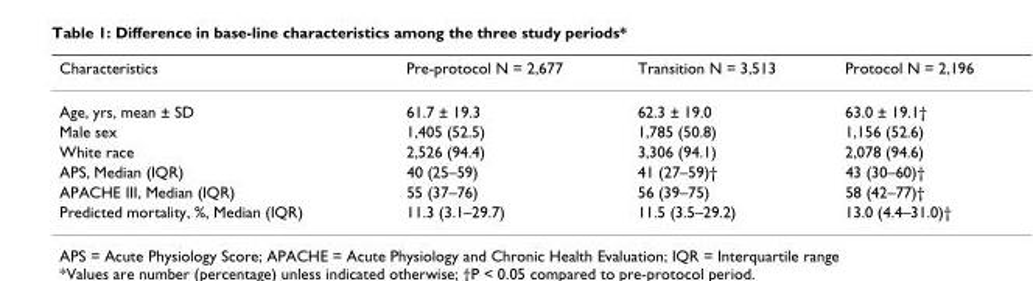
<table><thead><tr><td>Characteristics</td><td>Pre-protocol N = 2,677</td><td>Transition N = 3,513</td><td>Protocol N = 2,196</td></tr></thead><tbody><tr><td>Age, yrs, mean ± SD</td><td>61.7 ± 19.3</td><td>62.3 ± 19.0</td><td>63.0 ± 19.1†</td></tr><tr><td>Male sex</td><td>1,405 (52.5)</td><td>1,785 (50.8)</td><td>1,156 (52.6)</td></tr><tr><td>White race</td><td>2,526 (94.4)</td><td>3,306 (94.1)</td><td>2,078 (94.6)</td></tr><tr><td>APS, Median (IQR)</td><td>40 (25–59)</td><td>41 (27–59)†</td><td>43 (30–60)†</td></tr><tr><td>APACHE III, Median (IQR)</td><td>55 (37–76)</td><td>56 (39–75)</td><td>58 (42–77)†</td></tr><tr><td>Predicted mortality, %, Median (IQR)</td><td>11.3 (3.1–29.7)</td><td>11.5 (3.5–29.2)</td><td>13.0 (4.4–31.0)†</td></tr></tbody></table>